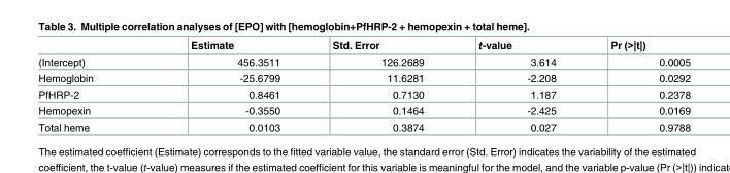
<table><thead><tr><td></td><td>Estimate</td><td>Std. Error</td><td>t-value</td><td>Pr (&gt;|t|)</td></tr></thead><tbody><tr><td>(Intercept)</td><td>456.3511</td><td>126.2689</td><td>3.614</td><td>0.0005</td></tr><tr><td>Hemoglobin</td><td>-25.6799</td><td>11.6281</td><td>-2.208</td><td>0.0292</td></tr><tr><td>PfHRP-2</td><td>0.8461</td><td>0.7130</td><td>1.187</td><td>0.2378</td></tr><tr><td>Hemopexin</td><td>-0.3550</td><td>0.1464</td><td>-2.425</td><td>0.0169</td></tr><tr><td>Total heme</td><td>0.0103</td><td>0.3874</td><td>0.027</td><td>0.9788</td></tr></tbody></table>